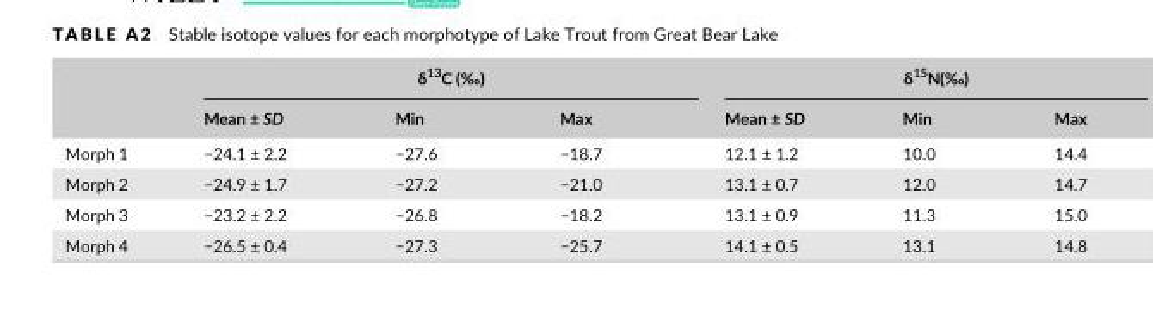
<table><thead><tr><td rowspan="2"></td><td colspan="3">δ<sup>13</sup>C (‰)</td><td colspan="3">δ<sup>15</sup>N(‰)</td></tr><tr><td>Mean ± SD</td><td>Min</td><td>Max</td><td>Mean ± SD</td><td>Min</td><td>Max</td></tr></thead><tbody><tr><td>Morph 1</td><td>−24.1 ± 2.2</td><td>−27.6</td><td>−18.7</td><td>12.1 ± 1.2</td><td>10.0</td><td>14.4</td></tr><tr><td>Morph 2</td><td>−24.9 ± 1.7</td><td>−27.2</td><td>−21.0</td><td>13.1 ± 0.7</td><td>12.0</td><td>14.7</td></tr><tr><td>Morph 3</td><td>−23.2 ± 2.2</td><td>−26.8</td><td>−18.2</td><td>13.1 ± 0.9</td><td>11.3</td><td>15.0</td></tr><tr><td>Morph 4</td><td>−26.5 ± 0.4</td><td>−27.3</td><td>−25.7</td><td>14.1 ± 0.5</td><td>13.1</td><td>14.8</td></tr></tbody></table>